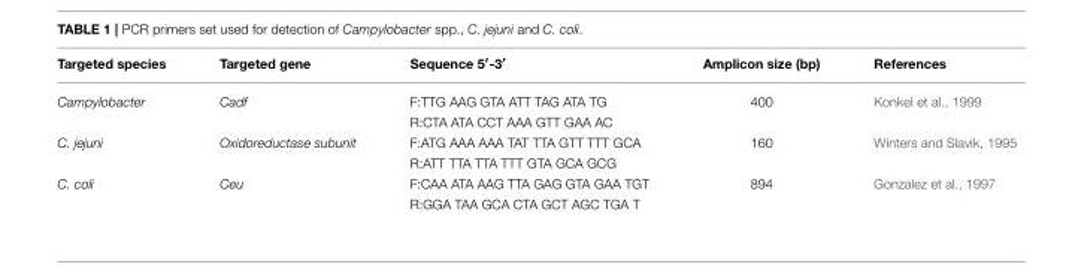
<table><thead><tr><td>Targeted species</td><td>Targeted gene</td><td>Sequence 5′-3′</td><td>Amplicon size (bp)</td><td>References</td></tr></thead><tbody><tr><td rowspan="2">Campylobacter</td><td>Cadf</td><td>F:TTG AAG GTA ATT TAG ATA TG</td><td>400</td><td>Konkel et al., 1999</td></tr><tr><td></td><td>R:CTA ATA CCT AAA GTT GAA AC</td><td></td><td></td></tr><tr><td rowspan="2">C. jejuni</td><td>Oxidoreductase subunit</td><td>F:ATG AAA AAA TAT TTA GTT TTT GCA</td><td>160</td><td>Winters and Slavik, 1995</td></tr><tr><td></td><td>R:ATT TTA TTA TTT GTA GCA GCG</td><td></td><td></td></tr><tr><td rowspan="2">C. coli</td><td>Ceu</td><td>F:CAA ATA AAG TTA GAG GTA GAA TGT</td><td>894</td><td>Gonzalez et al., 1997</td></tr><tr><td></td><td>R:GGA TAA GCA CTA GCT AGC TGA T</td><td></td><td></td></tr></tbody></table>